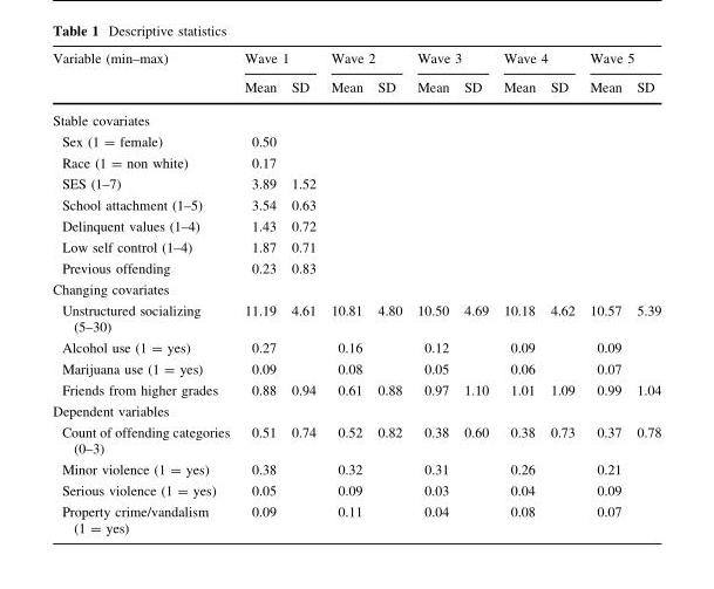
<table><thead><tr><td rowspan="2">Variable (min–max)</td><td colspan="2">Wave 1</td><td colspan="2">Wave 2</td><td colspan="2">Wave 3</td><td colspan="2">Wave 4</td><td colspan="2">Wave 5</td></tr><tr><td>Mean</td><td>SD</td><td>Mean</td><td>SD</td><td>Mean</td><td>SD</td><td>Mean</td><td>SD</td><td>Mean</td><td>SD</td></tr></thead><tbody><tr><td colspan="11">Stable covariates</td></tr><tr><td>Sex (1 = female)</td><td>0.50</td><td></td><td></td><td></td><td></td><td></td><td></td><td></td><td></td><td></td></tr><tr><td>Race (1 = non white)</td><td>0.17</td><td></td><td></td><td></td><td></td><td></td><td></td><td></td><td></td><td></td></tr><tr><td>SES (1–7)</td><td>3.89</td><td>1.52</td><td></td><td></td><td></td><td></td><td></td><td></td><td></td><td></td></tr><tr><td>School attachment (1–5)</td><td>3.54</td><td>0.63</td><td></td><td></td><td></td><td></td><td></td><td></td><td></td><td></td></tr><tr><td>Delinquent values (1–4)</td><td>1.43</td><td>0.72</td><td></td><td></td><td></td><td></td><td></td><td></td><td></td><td></td></tr><tr><td>Low self control (1–4)</td><td>1.87</td><td>0.71</td><td></td><td></td><td></td><td></td><td></td><td></td><td></td><td></td></tr><tr><td>Previous offending</td><td>0.23</td><td>0.83</td><td></td><td></td><td></td><td></td><td></td><td></td><td></td><td></td></tr><tr><td colspan="11">Changing covariates</td></tr><tr><td>Unstructured socializing (5–30)</td><td>11.19</td><td>4.61</td><td>10.81</td><td>4.80</td><td>10.50</td><td>4.69</td><td>10.18</td><td>4.62</td><td>10.57</td><td>5.39</td></tr><tr><td>Alcohol use (1 = yes)</td><td>0.27</td><td></td><td>0.16</td><td></td><td>0.12</td><td></td><td>0.09</td><td></td><td>0.09</td><td></td></tr><tr><td>Marijuana use (1 = yes)</td><td>0.09</td><td></td><td>0.08</td><td></td><td>0.05</td><td></td><td>0.06</td><td></td><td>0.07</td><td></td></tr><tr><td>Friends from higher grades</td><td>0.88</td><td>0.94</td><td>0.61</td><td>0.88</td><td>0.97</td><td>1.10</td><td>1.01</td><td>1.09</td><td>0.99</td><td>1.04</td></tr><tr><td colspan="11">Dependent variables</td></tr><tr><td>Count of offending categories (0–3)</td><td>0.51</td><td>0.74</td><td>0.52</td><td>0.82</td><td>0.38</td><td>0.60</td><td>0.38</td><td>0.73</td><td>0.37</td><td>0.78</td></tr><tr><td>Minor violence (1 = yes)</td><td>0.38</td><td></td><td>0.32</td><td></td><td>0.31</td><td></td><td>0.26</td><td></td><td>0.21</td><td></td></tr><tr><td>Serious violence (1 = yes)</td><td>0.05</td><td></td><td>0.09</td><td></td><td>0.03</td><td></td><td>0.04</td><td></td><td>0.09</td><td></td></tr><tr><td>Property crime/vandalism (1 = yes)</td><td>0.09</td><td></td><td>0.11</td><td></td><td>0.04</td><td></td><td>0.08</td><td></td><td>0.07</td><td></td></tr></tbody></table>